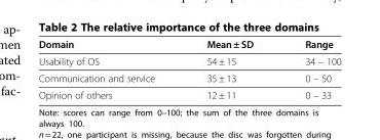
<table><thead><tr><td>Domain</td><td>Mean ± SD</td><td>Range</td></tr></thead><tbody><tr><td>Usability of OS</td><td>54 ± 15</td><td>34 – 100</td></tr><tr><td>Communication and service</td><td>35 ± 13</td><td>0 – 50</td></tr><tr><td>Opinion of others</td><td>12 ± 11</td><td>0 – 33</td></tr></tbody></table>